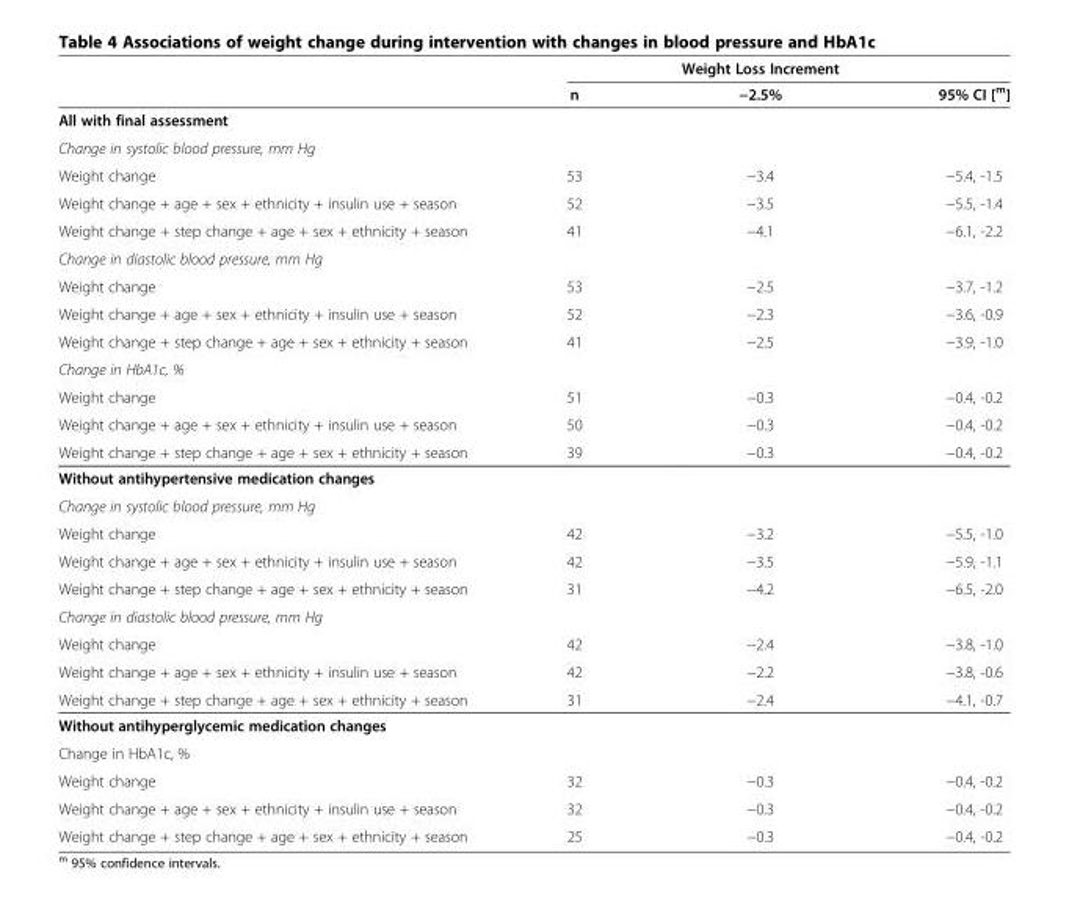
<table><thead><tr><td rowspan="2"></td><td colspan="3">Weight Loss Increment</td></tr><tr><td>n</td><td>−2.5%</td><td>95% CI [<sup>m</sup>]</td></tr></thead><tbody><tr><td colspan="4">All with final assessment</td></tr><tr><td colspan="4">Change in systolic blood pressure, mm Hg</td></tr><tr><td>Weight change</td><td>53</td><td>−3.4</td><td>−5.4, -1.5</td></tr><tr><td>Weight change + age + sex + ethnicity + insulin use + season</td><td>52</td><td>−3.5</td><td>−5.5, -1.4</td></tr><tr><td>Weight change + step change + age + sex + ethnicity + season</td><td>41</td><td>−4.1</td><td>−6.1, -2.2</td></tr><tr><td colspan="4">Change in diastolic blood pressure, mm Hg</td></tr><tr><td>Weight change</td><td>53</td><td>−2.5</td><td>−3.7, -1.2</td></tr><tr><td>Weight change + age + sex + ethnicity + insulin use + season</td><td>52</td><td>−2.3</td><td>−3.6, -0.9</td></tr><tr><td>Weight change + step change + age + sex + ethnicity + season</td><td>41</td><td>−2.5</td><td>−3.9, -1.0</td></tr><tr><td colspan="4">Change in HbA1c, %</td></tr><tr><td>Weight change</td><td>51</td><td>−0.3</td><td>−0.4, -0.2</td></tr><tr><td>Weight change + age + sex + ethnicity + insulin use + season</td><td>50</td><td>−0.3</td><td>−0.4, -0.2</td></tr><tr><td>Weight change + step change + age + sex + ethnicity + season</td><td>39</td><td>−0.3</td><td>−0.4, -0.2</td></tr><tr><td colspan="4">Without antihypertensive medication changes</td></tr><tr><td colspan="4">Change in systolic blood pressure, mm Hg</td></tr><tr><td>Weight change</td><td>42</td><td>−3.2</td><td>−5.5, -1.0</td></tr><tr><td>Weight change + age + sex + ethnicity + insulin use + season</td><td>42</td><td>−3.5</td><td>−5.9, -1.1</td></tr><tr><td>Weight change + step change + age + sex + ethnicity + season</td><td>31</td><td>−4.2</td><td>−6.5, -2.0</td></tr><tr><td colspan="4">Change in diastolic blood pressure, mm Hg</td></tr><tr><td>Weight change</td><td>42</td><td>−2.4</td><td>−3.8, -1.0</td></tr><tr><td>Weight change + age + sex + ethnicity + insulin use + season</td><td>42</td><td>−2.2</td><td>−3.8, -0.6</td></tr><tr><td>Weight change + step change + age + sex + ethnicity + season</td><td>31</td><td>−2.4</td><td>−4.1, -0.7</td></tr><tr><td colspan="4">Without antihyperglycemic medication changes</td></tr><tr><td colspan="4">Change in HbA1c, %</td></tr><tr><td>Weight change</td><td>32</td><td>−0.3</td><td>−0.4, -0.2</td></tr><tr><td>Weight change + age + sex + ethnicity + insulin use + season</td><td>32</td><td>−0.3</td><td>−0.4, -0.2</td></tr><tr><td>Weight change + step change + age + sex + ethnicity + season</td><td>25</td><td>−0.3</td><td>−0.4, -0.2</td></tr></tbody></table>